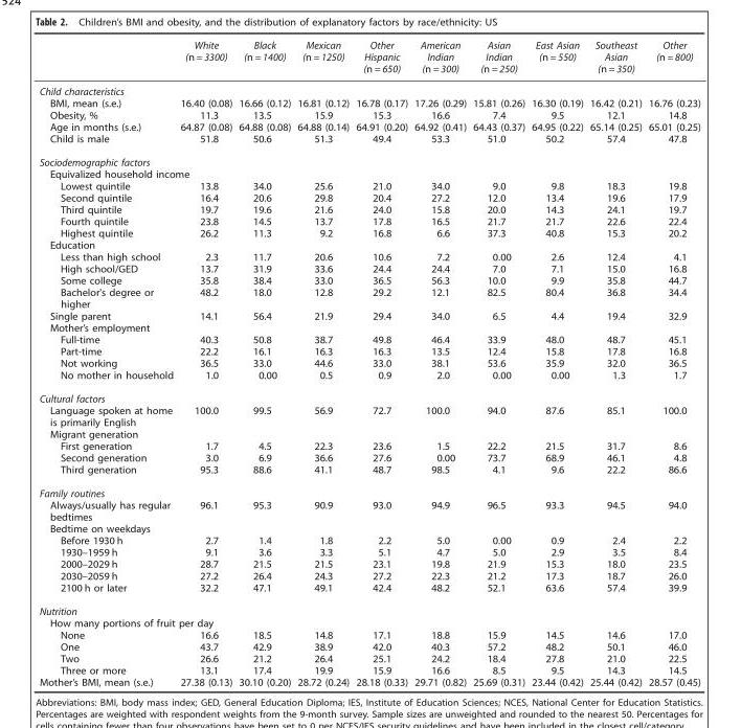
<table><thead><tr><td></td><td>White (n = 3300)</td><td>Black (n = 1400)</td><td>Mexican (n = 1250)</td><td>Other Hispanic (n = 650)</td><td>American Indian (n = 300)</td><td>Asian Indian (n = 250)</td><td>East Asian (n = 550)</td><td>Southeast Asian (n = 350)</td><td>Other (n = 800)</td></tr></thead><tbody><tr><td colspan="10">Child characteristics</td></tr><tr><td>BMI, mean (s.e.)</td><td>16.40 (0.08)</td><td>16.66 (0.12)</td><td>16.81 (0.12)</td><td>16.78 (0.17)</td><td>17.26 (0.29)</td><td>15.81 (0.26)</td><td>16.30 (0.19)</td><td>16.42 (0.21)</td><td>16.76 (0.23)</td></tr><tr><td>Obesity, %</td><td>11.3</td><td>13.5</td><td>15.9</td><td>15.3</td><td>16.6</td><td>7.4</td><td>9.5</td><td>12.1</td><td>14.8</td></tr><tr><td>Age in months (s.e.)</td><td>64.87 (0.08)</td><td>64.88 (0.08)</td><td>64.88 (0.14)</td><td>64.91 (0.20)</td><td>64.92 (0.41)</td><td>64.43 (0.37)</td><td>64.95 (0.22)</td><td>65.14 (0.25)</td><td>65.01 (0.25)</td></tr><tr><td>Child is male</td><td>51.8</td><td>50.6</td><td>51.3</td><td>49.4</td><td>53.3</td><td>51.0</td><td>50.2</td><td>57.4</td><td>47.8</td></tr><tr><td colspan="10">Sociodemographic factors</td></tr><tr><td colspan="10">Equivalized household income</td></tr><tr><td>Lowest quintile</td><td>13.8</td><td>34.0</td><td>25.6</td><td>21.0</td><td>34.0</td><td>9.0</td><td>9.8</td><td>18.3</td><td>19.8</td></tr><tr><td>Second quintile</td><td>16.4</td><td>20.6</td><td>29.8</td><td>20.4</td><td>27.2</td><td>12.0</td><td>13.4</td><td>19.6</td><td>17.9</td></tr><tr><td>Third quintile</td><td>19.7</td><td>19.6</td><td>21.6</td><td>24.0</td><td>15.8</td><td>20.0</td><td>14.3</td><td>24.1</td><td>19.7</td></tr><tr><td>Fourth quintile</td><td>23.8</td><td>14.5</td><td>13.7</td><td>17.8</td><td>16.5</td><td>21.7</td><td>21.7</td><td>22.6</td><td>22.4</td></tr><tr><td>Highest quintile</td><td>26.2</td><td>11.3</td><td>9.2</td><td>16.8</td><td>6.6</td><td>37.3</td><td>40.8</td><td>15.3</td><td>20.2</td></tr><tr><td colspan="10">Education</td></tr><tr><td>Less than high school</td><td>2.3</td><td>11.7</td><td>20.6</td><td>10.6</td><td>7.2</td><td>0.00</td><td>2.6</td><td>12.4</td><td>4.1</td></tr><tr><td>High school/GED</td><td>13.7</td><td>31.9</td><td>33.6</td><td>24.4</td><td>24.4</td><td>7.0</td><td>7.1</td><td>15.0</td><td>16.8</td></tr><tr><td>Some college</td><td>35.8</td><td>38.4</td><td>33.0</td><td>36.5</td><td>56.3</td><td>10.0</td><td>9.9</td><td>35.8</td><td>44.7</td></tr><tr><td>Bachelor&#x27;s degree or higher</td><td>48.2</td><td>18.0</td><td>12.8</td><td>29.2</td><td>12.1</td><td>82.5</td><td>80.4</td><td>36.8</td><td>34.4</td></tr><tr><td>Single parent</td><td>14.1</td><td>56.4</td><td>21.9</td><td>29.4</td><td>34.0</td><td>6.5</td><td>4.4</td><td>19.4</td><td>32.9</td></tr><tr><td colspan="10">Mother’s employment</td></tr><tr><td>Full-time</td><td>40.3</td><td>50.8</td><td>38.7</td><td>49.8</td><td>46.4</td><td>33.9</td><td>48.0</td><td>48.7</td><td>45.1</td></tr><tr><td>Part-time</td><td>22.2</td><td>16.1</td><td>16.3</td><td>16.3</td><td>13.5</td><td>12.4</td><td>15.8</td><td>17.8</td><td>16.8</td></tr><tr><td>Not working</td><td>36.5</td><td>33.0</td><td>44.6</td><td>33.0</td><td>38.1</td><td>53.6</td><td>35.9</td><td>32.0</td><td>36.5</td></tr><tr><td>No mother in household</td><td>1.0</td><td>0.00</td><td>0.5</td><td>0.9</td><td>2.0</td><td>0.00</td><td>0.00</td><td>1.3</td><td>1.7</td></tr><tr><td colspan="10">Cultural factors</td></tr><tr><td>Language spoken at home is primarily English</td><td>100.0</td><td>99.5</td><td>56.9</td><td>72.7</td><td>100.0</td><td>94.0</td><td>87.6</td><td>85.1</td><td>100.0</td></tr><tr><td colspan="10">Migrant generation</td></tr><tr><td>First generation</td><td>1.7</td><td>4.5</td><td>22.3</td><td>23.6</td><td>1.5</td><td>22.2</td><td>21.5</td><td>31.7</td><td>8.6</td></tr><tr><td>Second generation</td><td>3.0</td><td>6.9</td><td>36.6</td><td>27.6</td><td>0.00</td><td>73.7</td><td>68.9</td><td>46.1</td><td>4.8</td></tr><tr><td>Third generation</td><td>95.3</td><td>88.6</td><td>41.1</td><td>48.7</td><td>98.5</td><td>4.1</td><td>9.6</td><td>22.2</td><td>86.6</td></tr><tr><td colspan="10">Family routines</td></tr><tr><td>Always/usually has regular bedtimes</td><td>96.1</td><td>95.3</td><td>90.9</td><td>93.0</td><td>94.9</td><td>96.5</td><td>93.3</td><td>94.5</td><td>94.0</td></tr><tr><td colspan="10">Bedtime on weekdays</td></tr><tr><td>Before 1930 h</td><td>2.7</td><td>1.4</td><td>1.8</td><td>2.2</td><td>5.0</td><td>0.00</td><td>0.9</td><td>2.4</td><td>2.2</td></tr><tr><td>1930–1959 h</td><td>9.1</td><td>3.6</td><td>3.3</td><td>5.1</td><td>4.7</td><td>5.0</td><td>2.9</td><td>3.5</td><td>8.4</td></tr><tr><td>2000–2029 h</td><td>28.7</td><td>21.5</td><td>21.5</td><td>23.1</td><td>19.8</td><td>21.9</td><td>15.3</td><td>18.0</td><td>23.5</td></tr><tr><td>2030–2059 h</td><td>27.2</td><td>26.4</td><td>24.3</td><td>27.2</td><td>22.3</td><td>21.2</td><td>17.3</td><td>18.7</td><td>26.0</td></tr><tr><td>2100 h or later</td><td>32.2</td><td>47.1</td><td>49.1</td><td>42.4</td><td>48.2</td><td>52.1</td><td>63.6</td><td>57.4</td><td>39.9</td></tr><tr><td colspan="10">Nutrition</td></tr><tr><td colspan="10">How many portions of fruit per day</td></tr><tr><td>None</td><td>16.6</td><td>18.5</td><td>14.8</td><td>17.1</td><td>18.8</td><td>15.9</td><td>14.5</td><td>14.6</td><td>17.0</td></tr><tr><td>One</td><td>43.7</td><td>42.9</td><td>38.9</td><td>42.0</td><td>40.3</td><td>57.2</td><td>48.2</td><td>50.1</td><td>46.0</td></tr><tr><td>Two</td><td>26.6</td><td>21.2</td><td>26.4</td><td>25.1</td><td>24.2</td><td>18.4</td><td>27.8</td><td>21.0</td><td>22.5</td></tr><tr><td>Three or more</td><td>13.1</td><td>17.4</td><td>19.9</td><td>15.9</td><td>16.6</td><td>8.5</td><td>9.5</td><td>14.3</td><td>14.5</td></tr><tr><td>Mother’s BMI, mean (s.e.)</td><td>27.38 (0.13)</td><td>30.10 (0.20)</td><td>28.72 (0.24)</td><td>28.18 (0.33)</td><td>29.71 (0.82)</td><td>25.69 (0.31)</td><td>23.44 (0.42)</td><td>25.44 (0.42)</td><td>28.57 (0.45)</td></tr></tbody></table>